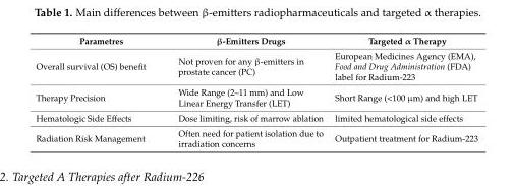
<table><thead><tr><td>Parametres</td><td>β-Emitters Drugs</td><td>Targeted α Therapy</td></tr></thead><tbody><tr><td>Overall survival (OS) benefit</td><td>Not proven for any β-emitters in prostate cancer (PC)</td><td>European Medicines Agency (EMA), Food and Drug Administration (FDA) label for Radium-223</td></tr><tr><td>Therapy Precision</td><td>Wide Range (2–11 mm) and Low Linear Energy Transfer (LET)</td><td>Short Range (&lt;100 µm) and high LET</td></tr><tr><td>Hematologic Side Effects</td><td>Dose limiting, risk of marrow ablation</td><td>limited hematological side effects</td></tr><tr><td>Radiation Risk Management</td><td>Often need for patient isolation due to irradiation concerns</td><td>Outpatient treatment for Radium-223</td></tr></tbody></table>